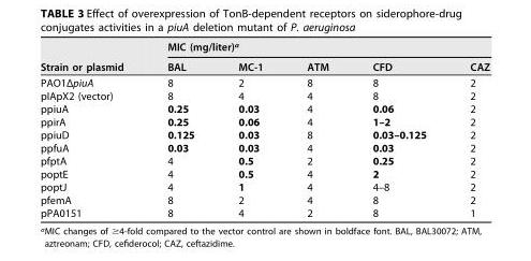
<table><thead><tr><td rowspan="2">Strain or plasmid</td><td colspan="5">MIC (mg/liter)<sup>a</sup></td></tr><tr><td>BAL</td><td>MC-1</td><td>ATM</td><td>CFD</td><td>CAZ</td></tr></thead><tbody><tr><td>PAO1ΔpiuA</td><td>8</td><td>2</td><td>8</td><td>8</td><td>2</td></tr><tr><td>pIApX2 (vector)</td><td>8</td><td>4</td><td>4</td><td>8</td><td>2</td></tr><tr><td>ppiuA</td><td>0.25</td><td>0.03</td><td>4</td><td>0.06</td><td>2</td></tr><tr><td>ppirA</td><td>0.25</td><td>0.06</td><td>4</td><td>1–2</td><td>2</td></tr><tr><td>ppiuD</td><td>0.125</td><td>0.03</td><td>8</td><td>0.03–0.125</td><td>2</td></tr><tr><td>ppfuA</td><td>0.03</td><td>0.03</td><td>4</td><td>0.03</td><td>2</td></tr><tr><td>pfptA</td><td>4</td><td>0.5</td><td>2</td><td>0.25</td><td>2</td></tr><tr><td>poptE</td><td>4</td><td>0.5</td><td>4</td><td>2</td><td>2</td></tr><tr><td>poptJ</td><td>4</td><td>1</td><td>4</td><td>4–8</td><td>2</td></tr><tr><td>pfemA</td><td>8</td><td>2</td><td>4</td><td>8</td><td>2</td></tr><tr><td>pPA0151</td><td>8</td><td>4</td><td>2</td><td>8</td><td>1</td></tr></tbody></table>